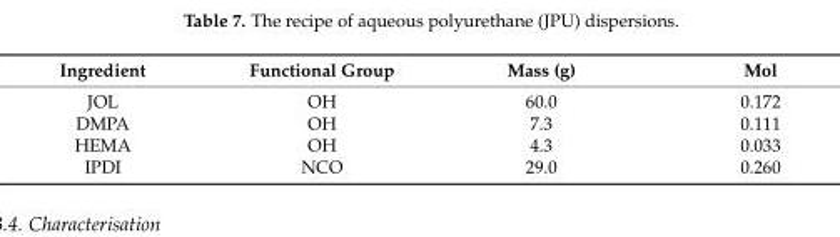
<table><thead><tr><td>Ingredient</td><td>Functional Group</td><td>Mass (g)</td><td>Mol</td></tr></thead><tbody><tr><td>JOL</td><td>OH</td><td>60.0</td><td>0.172</td></tr><tr><td>DMPA</td><td>OH</td><td>7.3</td><td>0.111</td></tr><tr><td>HEMA</td><td>OH</td><td>4.3</td><td>0.033</td></tr><tr><td>IPDI</td><td>NCO</td><td>29.0</td><td>0.260</td></tr></tbody></table>